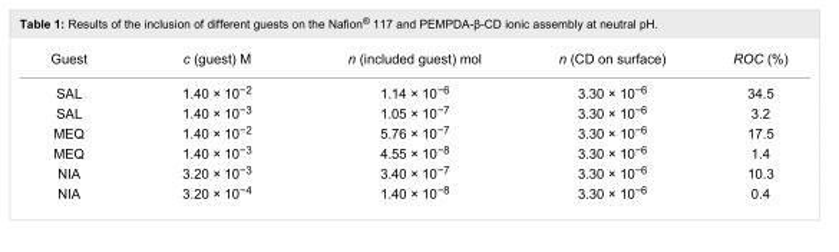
<table><tbody><tr><td>Guest</td><td>c (guest) M</td><td>n (included guest) mol</td><td>n (CD on surface)</td><td>ROC (%)</td></tr><tr><td>SAL</td><td>1.40 × 10<sup>−2</sup></td><td>1.14 × 10<sup>−6</sup></td><td>3.30 × 10<sup>−6</sup></td><td>34.5</td></tr><tr><td>SAL</td><td>1.40 × 10<sup>−3</sup></td><td>1.05 × 10<sup>−7</sup></td><td>3.30 × 10<sup>−6</sup></td><td>3.2</td></tr><tr><td>MEQ</td><td>1.40 × 10<sup>−2</sup></td><td>5.76 × 10<sup>−7</sup></td><td>3.30 × 10<sup>−6</sup></td><td>17.5</td></tr><tr><td>MEQ</td><td>1.40 × 10<sup>−3</sup></td><td>4.55 × 10<sup>−8</sup></td><td>3.30 × 10<sup>−6</sup></td><td>1.4</td></tr><tr><td>NIA</td><td>3.20 × 10<sup>−3</sup></td><td>3.40 × 10<sup>−7</sup></td><td>3.30 × 10<sup>−6</sup></td><td>10.3</td></tr><tr><td>NIA</td><td>3.20 × 10<sup>−4</sup></td><td>1.40 × 10<sup>−8</sup></td><td>3.30 × 10<sup>−6</sup></td><td>0.4</td></tr></tbody></table>